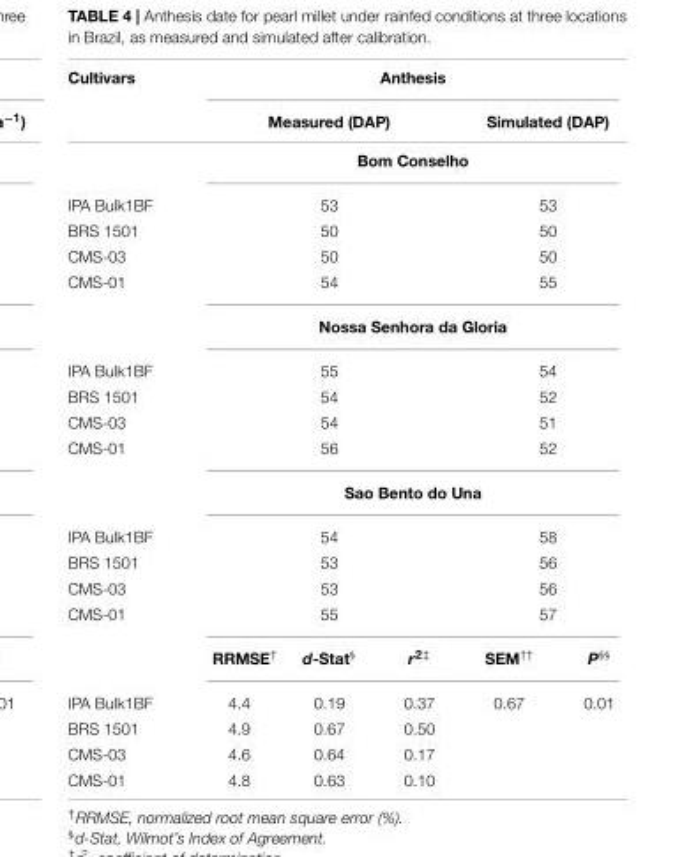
<table><thead><tr><td rowspan="2">Cultivars</td><td colspan="5">Anthesis</td></tr><tr><td colspan="3">Measured (DAP)</td><td colspan="2">Simulated (DAP)</td></tr></thead><tbody><tr><td></td><td colspan="5">Bom Conselho</td></tr><tr><td>IPA Bulk1BF</td><td colspan="3">53</td><td colspan="2">53</td></tr><tr><td>BRS 1501</td><td colspan="3">50</td><td colspan="2">50</td></tr><tr><td>CMS-03</td><td colspan="3">50</td><td colspan="2">50</td></tr><tr><td rowspan="2">CMS-01</td><td colspan="3">54</td><td colspan="2">55</td></tr><tr><td colspan="5">Nossa Senhora da Gloria</td></tr><tr><td>IPA Bulk1BF</td><td colspan="3">55</td><td colspan="2">54</td></tr><tr><td>BRS 1501</td><td colspan="3">54</td><td colspan="2">52</td></tr><tr><td>CMS-03</td><td colspan="3">54</td><td colspan="2">51</td></tr><tr><td rowspan="2">CMS-01</td><td colspan="3">56</td><td colspan="2">52</td></tr><tr><td colspan="5">Sao Bento do Una</td></tr><tr><td>IPA Bulk1BF</td><td colspan="3">54</td><td colspan="2">58</td></tr><tr><td>BRS 1501</td><td colspan="3">53</td><td colspan="2">56</td></tr><tr><td>CMS-03</td><td colspan="3">53</td><td colspan="2">56</td></tr><tr><td rowspan="2">CMS-01</td><td colspan="3">55</td><td colspan="2">57</td></tr><tr><td>RRMSE<sup>†</sup></td><td>d-Stat<sup>§</sup></td><td>r<sup>2‡</sup></td><td>SEM<sup>††</sup></td><td>P<sup>§§</sup></td></tr><tr><td>IPA Bulk1BF</td><td>4.4</td><td>0.19</td><td>0.37</td><td>0.67</td><td>0.01</td></tr><tr><td>BRS 1501</td><td>4.9</td><td>0.67</td><td>0.50</td><td></td><td></td></tr><tr><td>CMS-03</td><td>4.6</td><td>0.64</td><td>0.17</td><td></td><td></td></tr><tr><td>CMS-01</td><td>4.8</td><td>0.63</td><td>0.10</td><td></td><td></td></tr></tbody></table>